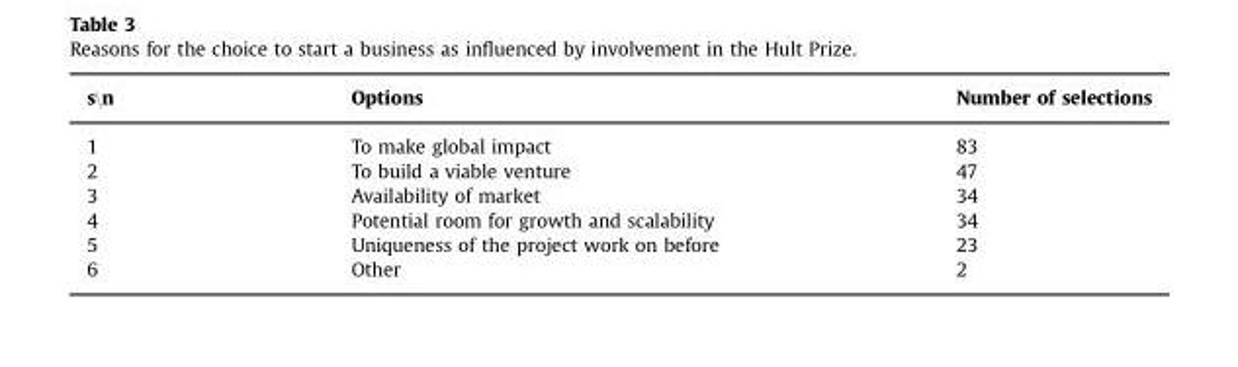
<table><thead><tr><td>s\n</td><td>Options</td><td>Number of selections</td></tr></thead><tbody><tr><td>1</td><td>To make global impact</td><td>83</td></tr><tr><td>2</td><td>To build a viable venture</td><td>47</td></tr><tr><td>3</td><td>Availability of market</td><td>34</td></tr><tr><td>4</td><td>Potential room for growth and scalability</td><td>34</td></tr><tr><td>5</td><td>Uniqueness of the project work on before</td><td>23</td></tr><tr><td>6</td><td>Other</td><td>2</td></tr></tbody></table>